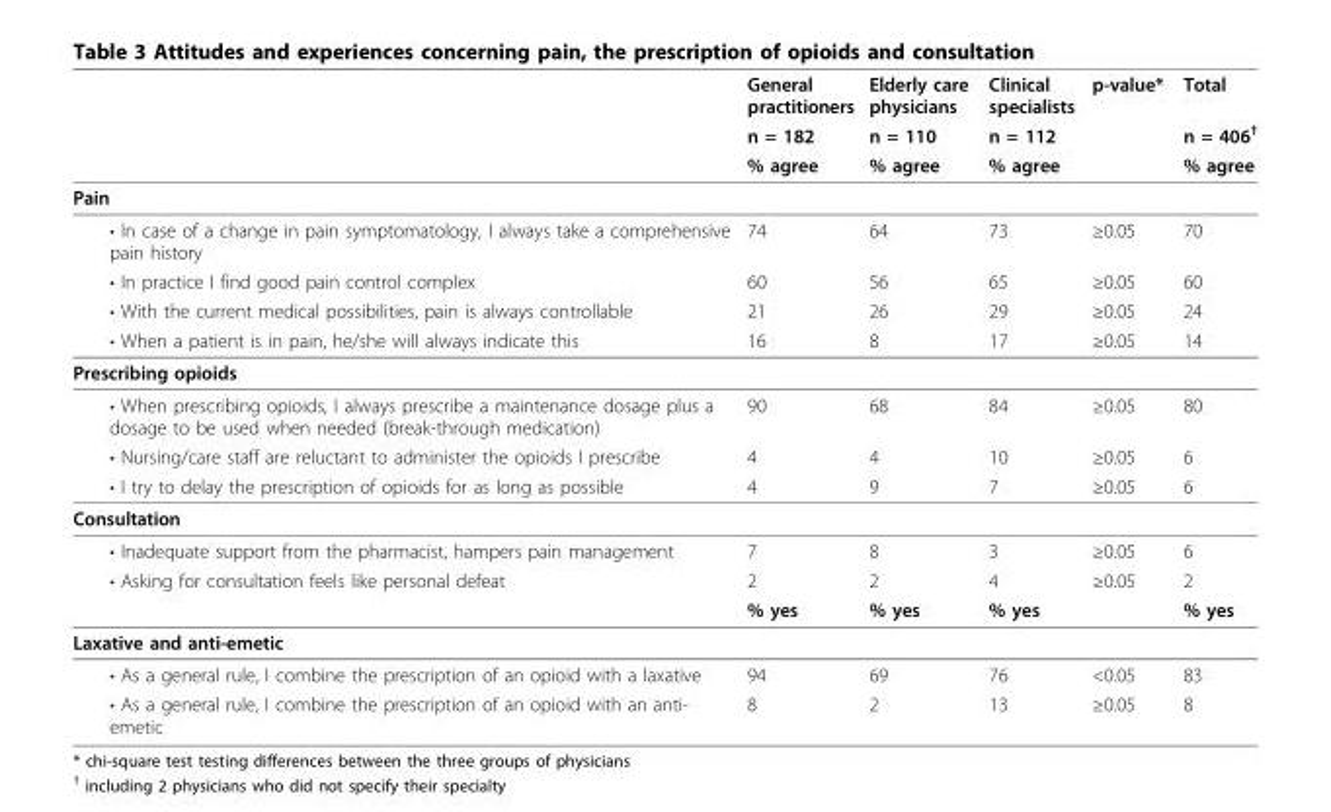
<table><thead><tr><td rowspan="3"></td><td rowspan="3">General practitioners n = 182 % agree</td><td rowspan="3">Elderly care physicians n = 110 % agree</td><td rowspan="3">Clinical specialists n = 112 % agree</td><td rowspan="3">p-value*</td><td rowspan="3">Total n = 406† % agree</td></tr><tr></tr><tr></tr></thead><tbody><tr><td colspan="6">Pain</td></tr><tr><td>• In case of a change in pain symptomatology, I always take a comprehensive pain history</td><td>74</td><td>64</td><td>73</td><td>≥0.05</td><td>70</td></tr><tr><td>• In practice I find good pain control complex</td><td>60</td><td>56</td><td>65</td><td>≥0.05</td><td>60</td></tr><tr><td>• With the current medical possibilities, pain is always controllable</td><td>21</td><td>26</td><td>29</td><td>≥0.05</td><td>24</td></tr><tr><td>• When a patient is in pain, he/she will always indicate this</td><td>16</td><td>8</td><td>17</td><td>≥0.05</td><td>14</td></tr><tr><td colspan="6">Prescribing opioids</td></tr><tr><td>• When prescribing opioids, I always prescribe a maintenance dosage plus a dosage to be used when needed (break-through medication)</td><td>90</td><td>68</td><td>84</td><td>≥0.05</td><td>80</td></tr><tr><td>• Nursing/care staff are reluctant to administer the opioids I prescribe</td><td>4</td><td>4</td><td>10</td><td>≥0.05</td><td>6</td></tr><tr><td>• I try to delay the prescription of opioids for as long as possible</td><td>4</td><td>9</td><td>7</td><td>≥0.05</td><td>6</td></tr><tr><td colspan="6">Consultation</td></tr><tr><td>• Inadequate support from the pharmacist, hampers pain management</td><td>7</td><td>8</td><td>3</td><td>≥0.05</td><td>6</td></tr><tr><td rowspan="2">• Asking for consultation feels like personal defeat</td><td>2</td><td>2</td><td>4</td><td>≥0.05</td><td>2</td></tr><tr><td>% yes</td><td>% yes</td><td>% yes</td><td></td><td>% yes</td></tr><tr><td colspan="6">Laxative and anti-emetic</td></tr><tr><td>• As a general rule, I combine the prescription of an opioid with a laxative</td><td>94</td><td>69</td><td>76</td><td>&lt;0.05</td><td>83</td></tr><tr><td>• As a general rule, I combine the prescription of an opioid with an anti- emetic</td><td>8</td><td>2</td><td>13</td><td>≥0.05</td><td>8</td></tr></tbody></table>